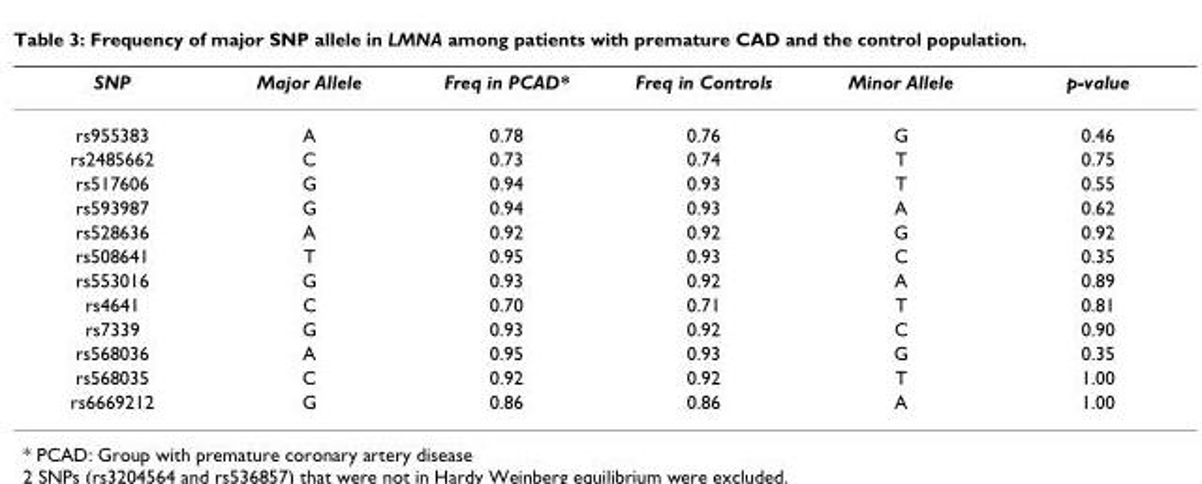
<table><thead><tr><td>SNP</td><td>Major Allele</td><td>Freq in PCAD*</td><td>Freq in Controls</td><td>Minor Allele</td><td>p-value</td></tr></thead><tbody><tr><td>rs955383</td><td>A</td><td>0.78</td><td>0.76</td><td>G</td><td>0.46</td></tr><tr><td>rs2485662</td><td>C</td><td>0.73</td><td>0.74</td><td>T</td><td>0.75</td></tr><tr><td>rs517606</td><td>G</td><td>0.94</td><td>0.93</td><td>T</td><td>0.55</td></tr><tr><td>rs593987</td><td>G</td><td>0.94</td><td>0.93</td><td>A</td><td>0.62</td></tr><tr><td>rs528636</td><td>A</td><td>0.92</td><td>0.92</td><td>G</td><td>0.92</td></tr><tr><td>rs508641</td><td>T</td><td>0.95</td><td>0.93</td><td>C</td><td>0.35</td></tr><tr><td>rs553016</td><td>G</td><td>0.93</td><td>0.92</td><td>A</td><td>0.89</td></tr><tr><td>rs4641</td><td>C</td><td>0.70</td><td>0.71</td><td>T</td><td>0.81</td></tr><tr><td>rs7339</td><td>G</td><td>0.93</td><td>0.92</td><td>C</td><td>0.90</td></tr><tr><td>rs568036</td><td>A</td><td>0.95</td><td>0.93</td><td>G</td><td>0.35</td></tr><tr><td>rs568035</td><td>C</td><td>0.92</td><td>0.92</td><td>T</td><td>1.00</td></tr><tr><td>rs6669212</td><td>G</td><td>0.86</td><td>0.86</td><td>A</td><td>1.00</td></tr></tbody></table>